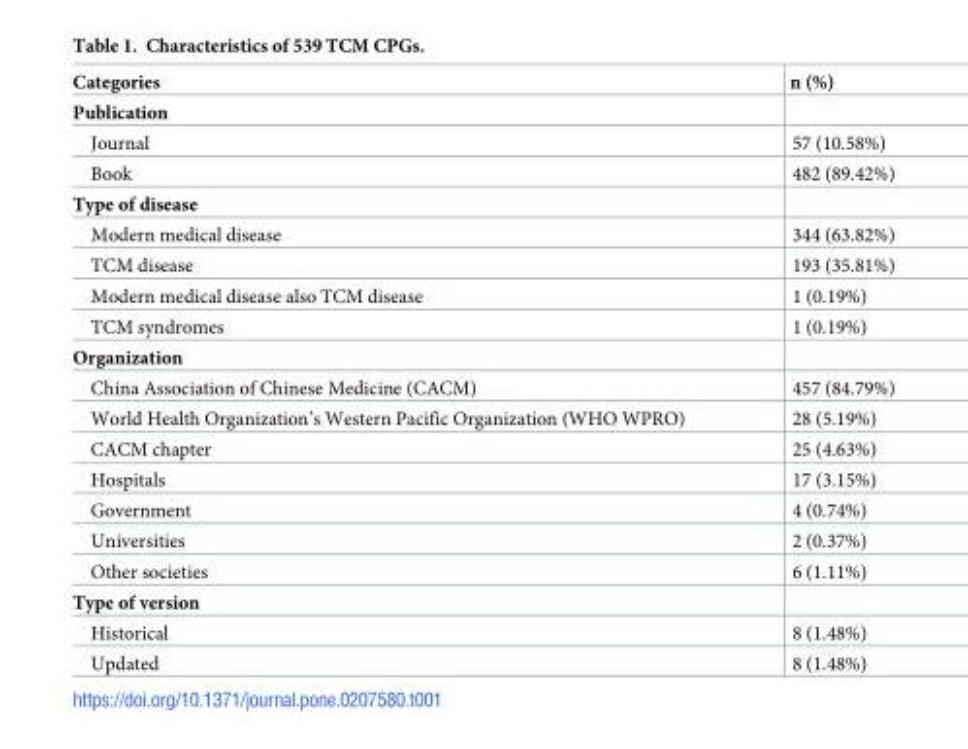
<table><thead><tr><td>Categories</td><td>n (%)</td></tr></thead><tbody><tr><td colspan="2">Publication</td></tr><tr><td>Journal</td><td>57 (10.58%)</td></tr><tr><td>Book</td><td>482 (89.42%)</td></tr><tr><td colspan="2">Type of disease</td></tr><tr><td>Modern medical disease</td><td>344 (63.82%)</td></tr><tr><td>TCM disease</td><td>193 (35.81%)</td></tr><tr><td>Modern medical disease also TCM disease</td><td>1 (0.19%)</td></tr><tr><td>TCM syndromes</td><td>1 (0.19%)</td></tr><tr><td colspan="2">Organization</td></tr><tr><td>China Association of Chinese Medicine (CACM)</td><td>457 (84.79%)</td></tr><tr><td>World Health Organization’s Western Pacific Organization (WHO WPRO)</td><td>28 (5.19%)</td></tr><tr><td>CACM chapter</td><td>25 (4.63%)</td></tr><tr><td>Hospitals</td><td>17 (3.15%)</td></tr><tr><td>Government</td><td>4 (0.74%)</td></tr><tr><td>Universities</td><td>2 (0.37%)</td></tr><tr><td>Other societies</td><td>6 (1.11%)</td></tr><tr><td colspan="2">Type of version</td></tr><tr><td>Historical</td><td>8 (1.48%)</td></tr><tr><td>Updated</td><td>8 (1.48%)</td></tr></tbody></table>